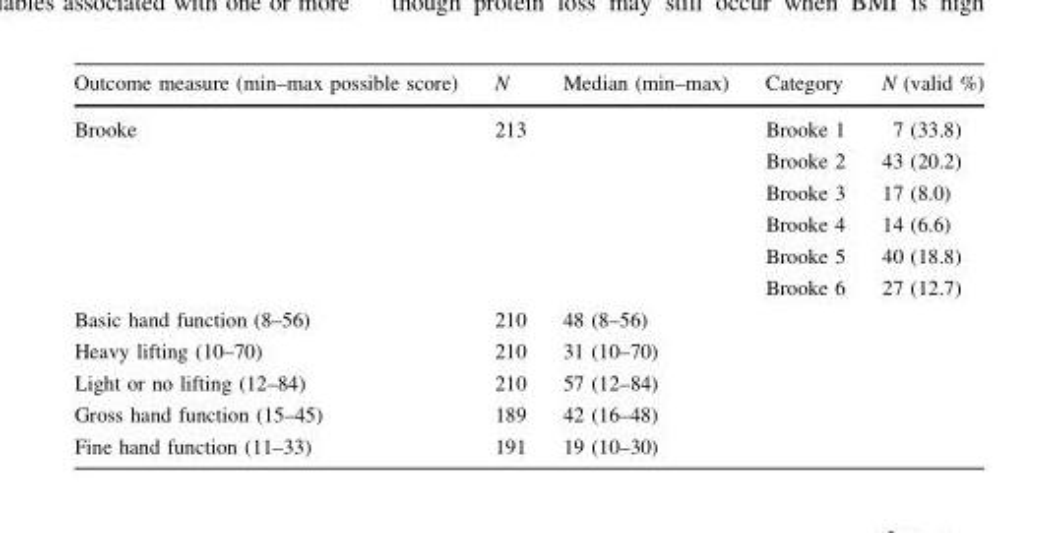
<table><thead><tr><td>Outcome measure (min–max possible score)</td><td>N</td><td>Median (min–max)</td><td>Category</td><td>N (valid %)</td></tr></thead><tbody><tr><td rowspan="6">Brooke</td><td rowspan="6">213</td><td rowspan="6"></td><td>Brooke 1</td><td>7 (33.8)</td></tr><tr><td>Brooke 2</td><td>43 (20.2)</td></tr><tr><td>Brooke 3</td><td>17 (8.0)</td></tr><tr><td>Brooke 4</td><td>14 (6.6)</td></tr><tr><td>Brooke 5</td><td>40 (18.8)</td></tr><tr><td>Brooke 6</td><td>27 (12.7)</td></tr><tr><td>Basic hand function (8–56)</td><td>210</td><td>48 (8–56)</td><td colspan="2"></td></tr><tr><td>Heavy lifting (10–70)</td><td>210</td><td>31 (10–70)</td><td colspan="2"></td></tr><tr><td>Light or no lifting (12–84)</td><td>210</td><td>57 (12–84)</td><td colspan="2"></td></tr><tr><td>Gross hand function (15–45)</td><td>189</td><td>42 (16–48)</td><td colspan="2"></td></tr><tr><td>Fine hand function (11–33)</td><td>191</td><td>19 (10–30)</td><td colspan="2"></td></tr></tbody></table>